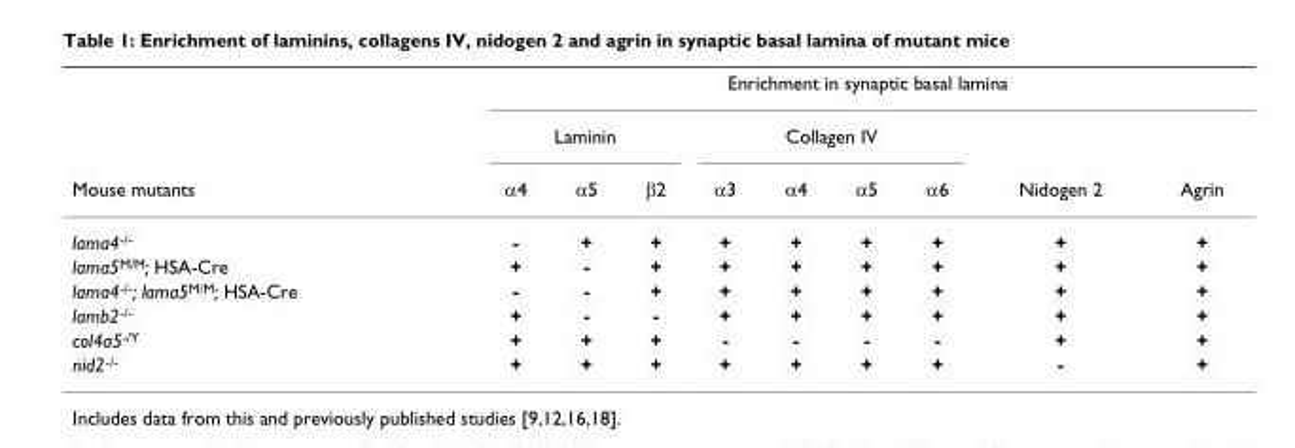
<table><thead><tr><td rowspan="3">Mouse mutants</td><td colspan="9">Enrichment in synaptic basal lamina</td></tr><tr><td colspan="3">Laminin</td><td colspan="4">Collagen IV</td><td rowspan="2">Nidogen 2</td><td rowspan="2">Agrin</td></tr><tr><td>α4</td><td>α5</td><td>β2</td><td>α3</td><td>α4</td><td>α5</td><td>α6</td></tr></thead><tbody><tr><td>lama4<sup>-/-</sup></td><td>-</td><td>+</td><td>+</td><td>+</td><td>+</td><td>+</td><td>+</td><td>+</td><td>+</td></tr><tr><td>lama5<sup>M/M</sup>; HSA-Cre</td><td>+</td><td>-</td><td>+</td><td>+</td><td>+</td><td>+</td><td>+</td><td>+</td><td>+</td></tr><tr><td>lama4<sup>-/-</sup>; lama5<sup>M/M</sup>; HSA-Cre</td><td>-</td><td>-</td><td>+</td><td>+</td><td>+</td><td>+</td><td>+</td><td>+</td><td>+</td></tr><tr><td>lamb2<sup>-/-</sup></td><td>+</td><td>-</td><td>-</td><td>+</td><td>+</td><td>+</td><td>+</td><td>+</td><td>+</td></tr><tr><td>col4a5<sup>-/Y</sup></td><td>+</td><td>+</td><td>+</td><td>-</td><td>-</td><td>-</td><td>-</td><td>+</td><td>+</td></tr><tr><td>nid2<sup>-/-</sup></td><td>+</td><td>+</td><td>+</td><td>+</td><td>+</td><td>+</td><td>+</td><td>-</td><td>+</td></tr></tbody></table>